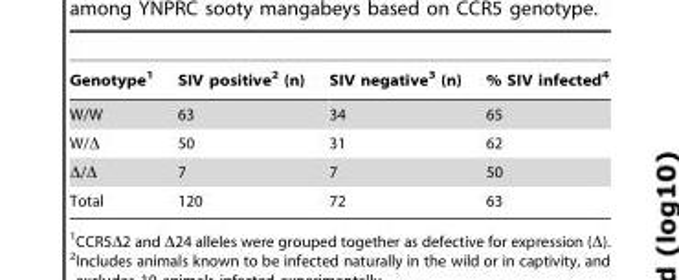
<table><thead><tr><td>Genotype<sup>1</sup></td><td>SIV positive<sup>2</sup> (n)</td><td>SIV negative<sup>3</sup> (n)</td><td>% SIV infected<sup>4</sup></td></tr></thead><tbody><tr><td>W/W</td><td>63</td><td>34</td><td>65</td></tr><tr><td>W/Δ</td><td>50</td><td>31</td><td>62</td></tr><tr><td>Δ/Δ</td><td>7</td><td>7</td><td>50</td></tr><tr><td>Total</td><td>120</td><td>72</td><td>63</td></tr></tbody></table>